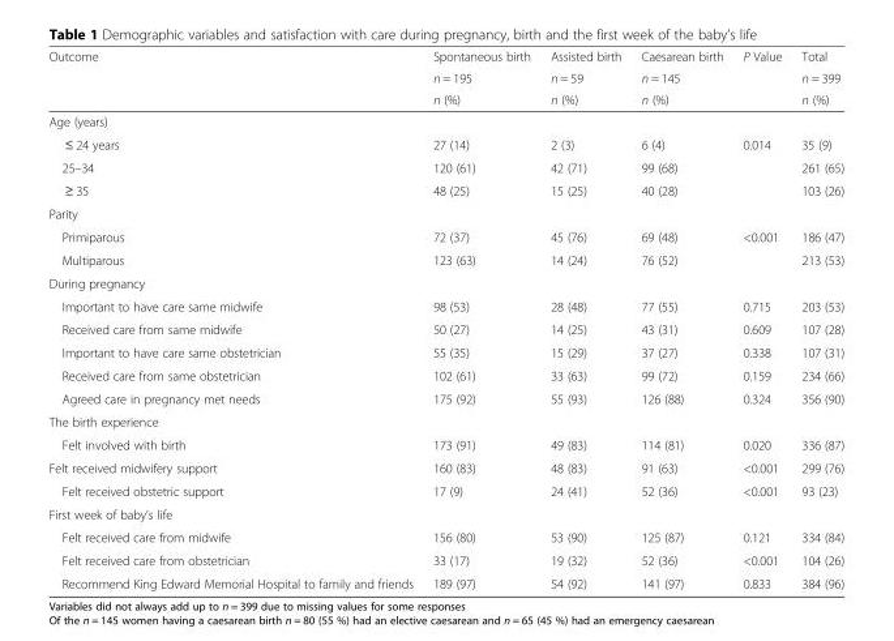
<table><thead><tr><td rowspan="3">Outcome</td><td rowspan="3">Spontaneous birth n = 195 n (%)</td><td rowspan="3">Assisted birth n = 59 n (%)</td><td rowspan="3">Caesarean birth n = 145 n (%)</td><td rowspan="3">P Value</td><td rowspan="3">Total n = 399 n (%)</td></tr><tr></tr><tr></tr></thead><tbody><tr><td colspan="6">Age (years)</td></tr><tr><td>≤ 24 years</td><td>27 (14)</td><td>2 (3)</td><td>6 (4)</td><td rowspan="3">0.014</td><td>35 (9)</td></tr><tr><td>25–34</td><td>120 (61)</td><td>42 (71)</td><td>99 (68)</td><td>261 (65)</td></tr><tr><td>≥ 35</td><td>48 (25)</td><td>15 (25)</td><td>40 (28)</td><td>103 (26)</td></tr><tr><td colspan="6">Parity</td></tr><tr><td>Primiparous</td><td>72 (37)</td><td>45 (76)</td><td>69 (48)</td><td rowspan="2">&lt;0.001</td><td>186 (47)</td></tr><tr><td>Multiparous</td><td>123 (63)</td><td>14 (24)</td><td>76 (52)</td><td>213 (53)</td></tr><tr><td colspan="6">During pregnancy</td></tr><tr><td>Important to have care same midwife</td><td>98 (53)</td><td>28 (48)</td><td>77 (55)</td><td>0.715</td><td>203 (53)</td></tr><tr><td>Received care from same midwife</td><td>50 (27)</td><td>14 (25)</td><td>43 (31)</td><td>0.609</td><td>107 (28)</td></tr><tr><td>Important to have care same obstetrician</td><td>55 (35)</td><td>15 (29)</td><td>37 (27)</td><td>0.338</td><td>107 (31)</td></tr><tr><td>Received care from same obstetrician</td><td>102 (61)</td><td>33 (63)</td><td>99 (72)</td><td>0.159</td><td>234 (66)</td></tr><tr><td>Agreed care in pregnancy met needs</td><td>175 (92)</td><td>55 (93)</td><td>126 (88)</td><td>0.324</td><td>356 (90)</td></tr><tr><td colspan="6">The birth experience</td></tr><tr><td>Felt involved with birth</td><td>173 (91)</td><td>49 (83)</td><td>114 (81)</td><td>0.020</td><td>336 (87)</td></tr><tr><td>Felt received midwifery support</td><td>160 (83)</td><td>48 (83)</td><td>91 (63)</td><td>&lt;0.001</td><td>299 (76)</td></tr><tr><td>Felt received obstetric support</td><td>17 (9)</td><td>24 (41)</td><td>52 (36)</td><td>&lt;0.001</td><td>93 (23)</td></tr><tr><td colspan="6">First week of baby’s life</td></tr><tr><td>Felt received care from midwife</td><td>156 (80)</td><td>53 (90)</td><td>125 (87)</td><td>0.121</td><td>334 (84)</td></tr><tr><td>Felt received care from obstetrician</td><td>33 (17)</td><td>19 (32)</td><td>52 (36)</td><td>&lt;0.001</td><td>104 (26)</td></tr><tr><td>Recommend King Edward Memorial Hospital to family and friends</td><td>189 (97)</td><td>54 (92)</td><td>141 (97)</td><td>0.833</td><td>384 (96)</td></tr></tbody></table>